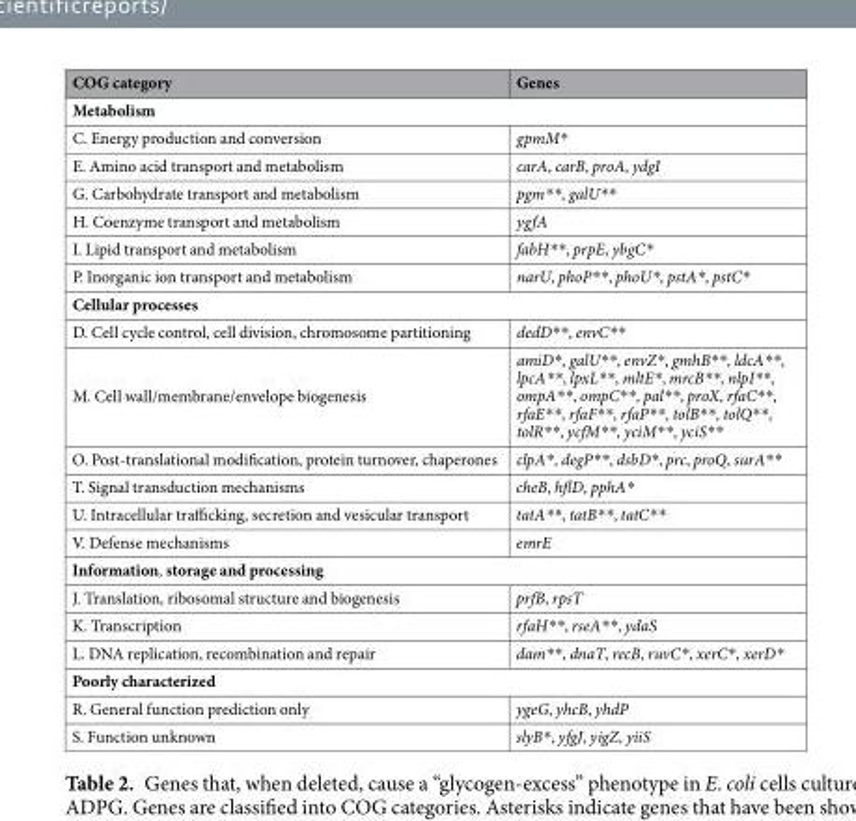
<table><thead><tr><td>COG category</td><td>Genes</td></tr></thead><tbody><tr><td colspan="2">Metabolism</td></tr><tr><td>C. Energy production and conversion</td><td>gpmM*</td></tr><tr><td>E. Amino acid transport and metabolism</td><td>carA, carB, proA, ydgI</td></tr><tr><td>G. Carbohydrate transport and metabolism</td><td>pgm**, galU**</td></tr><tr><td>H. Coenzyme transport and metabolism</td><td>ygfA</td></tr><tr><td>I. Lipid transport and metabolism</td><td>fabH**, prpE, ybgC*</td></tr><tr><td>P. Inorganic ion transport and metabolism</td><td>narU, phoP**, phoU*, pstA*, pstC*</td></tr><tr><td colspan="2">Cellular processes</td></tr><tr><td>D. Cell cycle control, cell division, chromosome partitioning</td><td>dedD**, envC**</td></tr><tr><td>M. Cell wall/membrane/envelope biogenesis</td><td>amiD*, galU**, envZ*, gmhB**, ldcA**, lpcA**, lpxL**, mltE*, mrcB**, nlpI**, ompA**, ompC**, pal**, proX, rfaC**, rfaE**, rfaF**, rfaP**, tolB**, tolQ**, tolR**, ycfM**, yciM**, yciS**</td></tr><tr><td>O. Post-translational modification, protein turnover, chaperones</td><td>clpA*, degP**, dsbD*, prc, proQ, surA**</td></tr><tr><td>T. Signal transduction mechanisms</td><td>cheB, hflD, pphA*</td></tr><tr><td>U. Intracellular trafficking, secretion and vesicular transport</td><td>tatA**, tatB**, tatC**</td></tr><tr><td>V. Defense mechanisms</td><td>emrE</td></tr><tr><td colspan="2">Information, storage and processing</td></tr><tr><td>J. Translation, ribosomal structure and biogenesis</td><td>prfB, rpsT</td></tr><tr><td>K. Transcription</td><td>rfaH**, rseA**, ydaS</td></tr><tr><td>L. DNA replication, recombination and repair</td><td>dam**, dnaT, recB, ruvC*, xerC*, xerD*</td></tr><tr><td colspan="2">Poorly characterized</td></tr><tr><td>R. General function prediction only</td><td>ygeG, yhcB, yhdP</td></tr><tr><td>S. Function unknown</td><td>slyB*, yfgJ, yigZ, yiiS</td></tr></tbody></table>